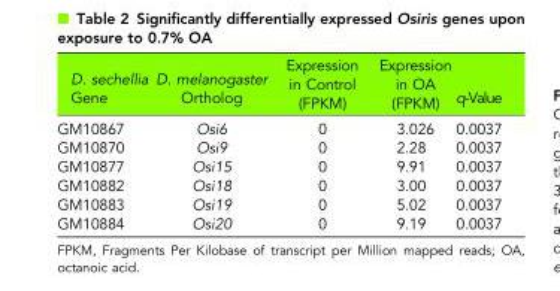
<table><thead><tr><td>D. sechellia Gene</td><td>D. melanogaster Ortholog</td><td>Expression in Control (FPKM)</td><td>Expression in OA (FPKM)</td><td>q-Value</td></tr></thead><tbody><tr><td>GM10867</td><td>Osi6</td><td>0</td><td>3.026</td><td>0.0037</td></tr><tr><td>GM10870</td><td>Osi9</td><td>0</td><td>2.28</td><td>0.0037</td></tr><tr><td>GM10877</td><td>Osi15</td><td>0</td><td>9.91</td><td>0.0037</td></tr><tr><td>GM10882</td><td>Osi18</td><td>0</td><td>3.00</td><td>0.0037</td></tr><tr><td>GM10883</td><td>Osi19</td><td>0</td><td>5.02</td><td>0.0037</td></tr><tr><td>GM10884</td><td>Osi20</td><td>0</td><td>9.19</td><td>0.0037</td></tr></tbody></table>